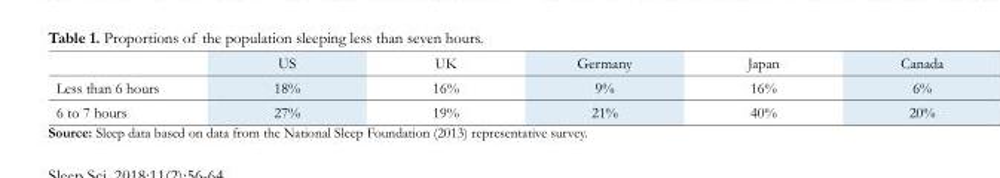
<table><thead><tr><td></td><td>US</td><td>UK</td><td>Germany</td><td>Japan</td><td>Canada</td></tr></thead><tbody><tr><td>Less than 6 hours</td><td>18%</td><td>16%</td><td>9%</td><td>16%</td><td>6%</td></tr><tr><td>6 to 7 hours</td><td>27%</td><td>19%</td><td>21%</td><td>40%</td><td>20%</td></tr></tbody></table>